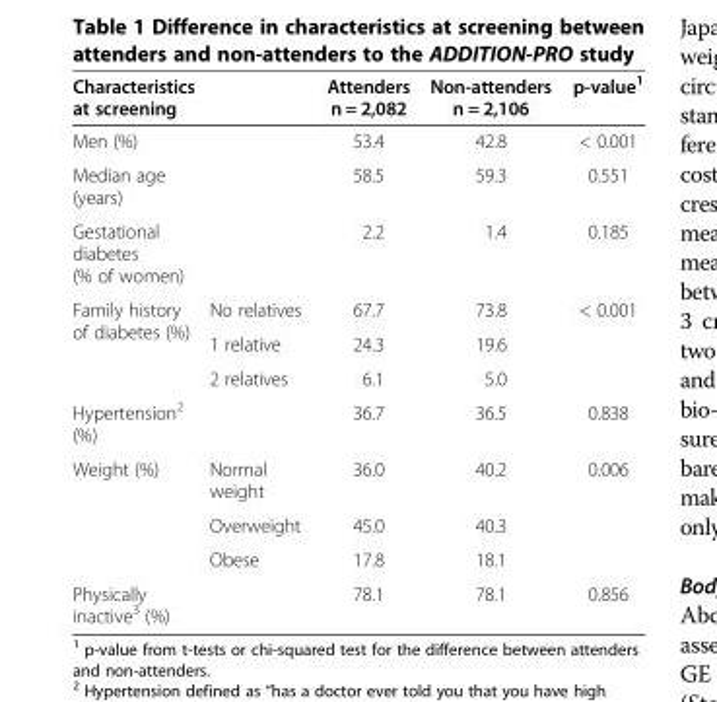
<table><thead><tr><td colspan="2">Characteristics at screening</td><td rowspan="2">Attenders n = 2,082 53.4</td><td rowspan="2">Non-attenders n = 2,106 42.8</td><td rowspan="2">p-value<sup>1</sup> &lt; 0.001</td></tr><tr><td>Men (%)</td><td></td></tr></thead><tbody><tr><td>Median age (years)</td><td></td><td>58.5</td><td>59.3</td><td>0.551</td></tr><tr><td>Gestational diabetes (% of women)</td><td></td><td>2.2</td><td>1.4</td><td>0.185</td></tr><tr><td rowspan="3">Family history of diabetes (%)</td><td>No relatives</td><td>67.7</td><td>73.8</td><td>&lt; 0.001</td></tr><tr><td>1 relative</td><td>24.3</td><td>19.6</td><td></td></tr><tr><td>2 relatives</td><td>6.1</td><td>5.0</td><td></td></tr><tr><td>Hypertension<sup>2</sup> (%)</td><td></td><td>36.7</td><td>36.5</td><td>0.838</td></tr><tr><td rowspan="3">Weight (%)</td><td>Normal weight</td><td>36.0</td><td>40.2</td><td>0.006</td></tr><tr><td>Overweight</td><td>45.0</td><td>40.3</td><td></td></tr><tr><td>Obese</td><td>17.8</td><td>18.1</td><td></td></tr><tr><td>Physically inactive<sup>3</sup> (%)</td><td></td><td>78.1</td><td>78.1</td><td>0.856</td></tr></tbody></table>